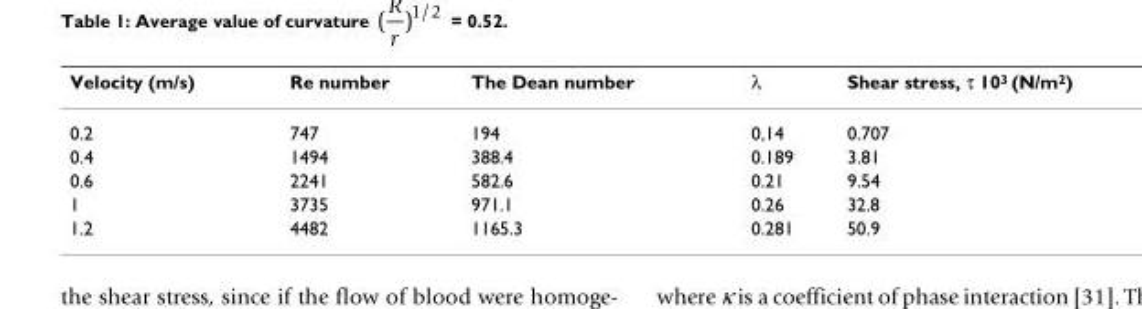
<table><thead><tr><td>Velocity (m/s)</td><td>Re number</td><td>The Dean number</td><td>λ</td><td>Shear stress, τ 10<sup>3</sup> (N/m<sup>2</sup>)</td></tr></thead><tbody><tr><td>0.2</td><td>747</td><td>194</td><td>0,14</td><td>0.707</td></tr><tr><td>0.4</td><td>1494</td><td>388.4</td><td>0.189</td><td>3.81</td></tr><tr><td>0.6</td><td>2241</td><td>582.6</td><td>0.21</td><td>9.54</td></tr><tr><td>1</td><td>3735</td><td>971.1</td><td>0.26</td><td>32.8</td></tr><tr><td>1.2</td><td>4482</td><td>1165.3</td><td>0.281</td><td>50.9</td></tr></tbody></table>